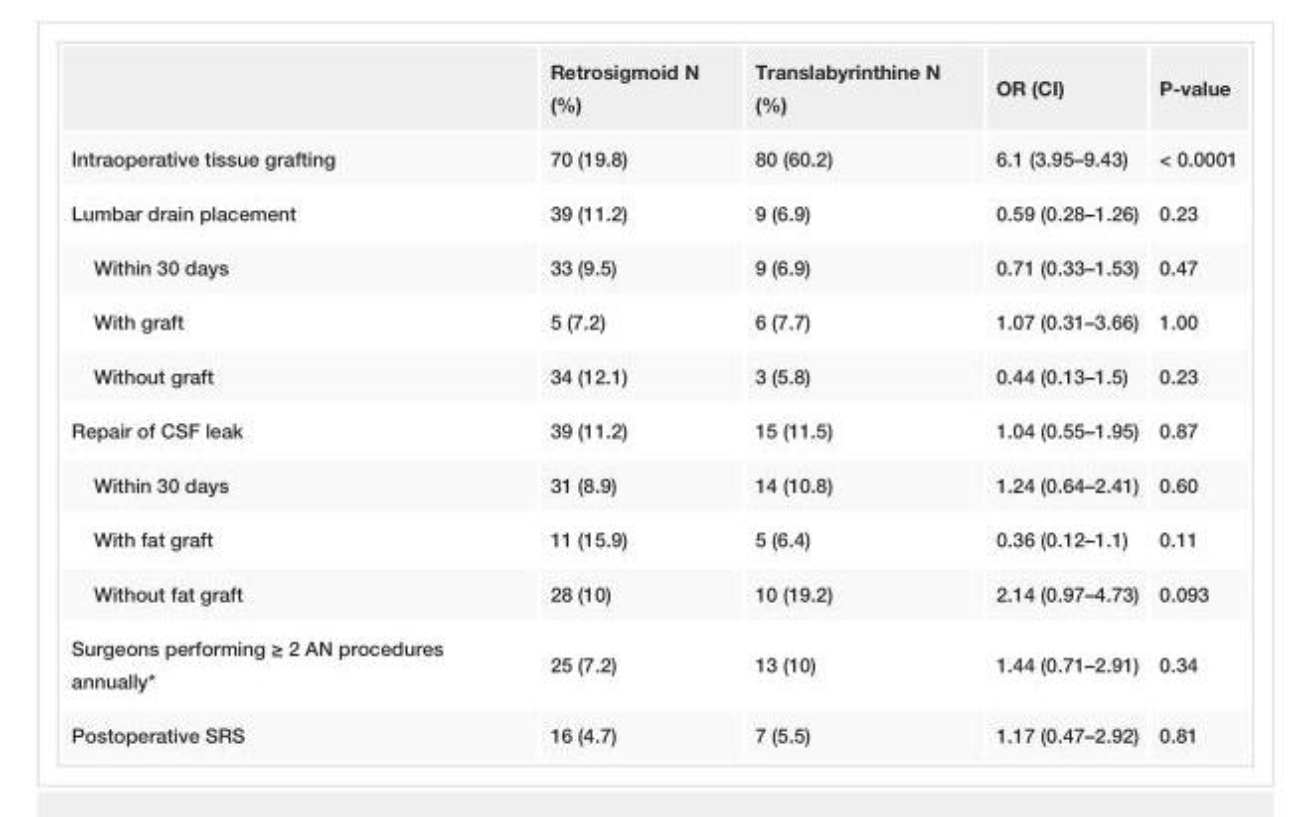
<table><thead><tr><td></td><td>Retrosigmoid N (%)</td><td>Translabyrinthine N (%)</td><td>OR (CI)</td><td>P-value</td></tr></thead><tbody><tr><td>Intraoperative tissue grafting</td><td>70 (19.8)</td><td>80 (60.2)</td><td>6.1 (3.95–9.43)</td><td>&lt; 0.0001</td></tr><tr><td>Lumbar drain placement</td><td>39 (11.2)</td><td>9 (6.9)</td><td>0.59 (0.28–1.26)</td><td>0.23</td></tr><tr><td>Within 30 days</td><td>33 (9.5)</td><td>9 (6.9)</td><td>0.71 (0.33–1.53)</td><td>0.47</td></tr><tr><td>With graft</td><td>5 (7.2)</td><td>6 (7.7)</td><td>1.07 (0.31–3.66)</td><td>1.00</td></tr><tr><td>Without graft</td><td>34 (12.1)</td><td>3 (5.8)</td><td>0.44 (0.13–1.5)</td><td>0.23</td></tr><tr><td>Repair of CSF leak</td><td>39 (11.2)</td><td>15 (11.5)</td><td>1.04 (0.55–1.95)</td><td>0.87</td></tr><tr><td>Within 30 days</td><td>31 (8.9)</td><td>14 (10.8)</td><td>1.24 (0.64–2.41)</td><td>0.60</td></tr><tr><td>With fat graft</td><td>11 (15.9)</td><td>5 (6.4)</td><td>0.36 (0.12–1.1)</td><td>0.11</td></tr><tr><td>Without fat graft</td><td>28 (10)</td><td>10 (19.2)</td><td>2.14 (0.97–4.73)</td><td>0.093</td></tr><tr><td>Surgeons performing ≥ 2 AN procedures annually*</td><td>25 (7.2)</td><td>13 (10)</td><td>1.44 (0.71–2.91)</td><td>0.34</td></tr><tr><td>Postoperative SRS</td><td>16 (4.7)</td><td>7 (5.5)</td><td>1.17 (0.47–2.92)</td><td>0.81</td></tr></tbody></table>